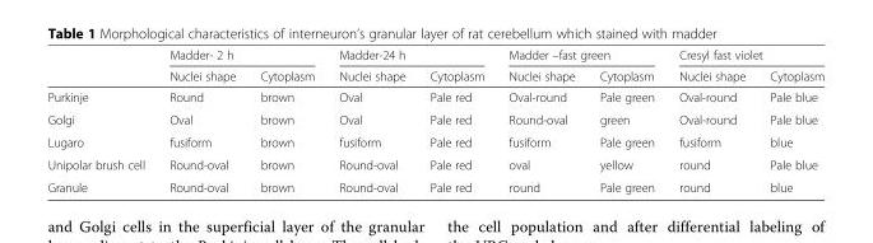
<table><thead><tr><td rowspan="2"></td><td colspan="2">Madder- 2 h</td><td colspan="2">Madder-24 h</td><td colspan="2">Madder –fast green</td><td colspan="2">Cresyl fast violet</td></tr><tr><td>Nuclei shape</td><td>Cytoplasm</td><td>Nuclei shape</td><td>Cytoplasm</td><td>Nuclei shape</td><td>Cytoplasm</td><td>Nuclei shape</td><td>Cytoplasm</td></tr></thead><tbody><tr><td>Purkinje</td><td>Round</td><td>brown</td><td>Oval</td><td>Pale red</td><td>Oval-round</td><td>Pale green</td><td>Oval-round</td><td>Pale blue</td></tr><tr><td>Golgi</td><td>Oval</td><td>brown</td><td>Oval</td><td>Pale red</td><td>Round-oval</td><td>green</td><td>Oval-round</td><td>Pale blue</td></tr><tr><td>Lugaro</td><td>fusiform</td><td>brown</td><td>fusiform</td><td>Pale red</td><td>fusiform</td><td>Pale green</td><td>fusiform</td><td>blue</td></tr><tr><td>Unipolar brush cell</td><td>Round-oval</td><td>brown</td><td>Round-oval</td><td>Pale red</td><td>oval</td><td>yellow</td><td>round</td><td>Pale blue</td></tr><tr><td>Granule</td><td>Round-oval</td><td>brown</td><td>Round-oval</td><td>Pale red</td><td>round</td><td>Pale green</td><td>round</td><td>blue</td></tr></tbody></table>